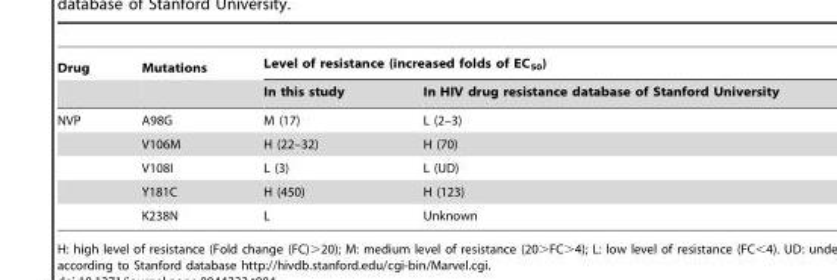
<table><thead><tr><td rowspan="2">Drug</td><td rowspan="2">Mutations</td><td colspan="2">Level of resistance (increased folds of EC<sub>50</sub>)</td></tr><tr><td>In this study</td><td>In HIV drug resistance database of Stanford University</td></tr></thead><tbody><tr><td rowspan="5">NVP</td><td>A98G</td><td>M (17)</td><td>L (2–3)</td></tr><tr><td>V106M</td><td>H (22–32)</td><td>H (70)</td></tr><tr><td>V108I</td><td>L (3)</td><td>L (UD)</td></tr><tr><td>Y181C</td><td>H (450)</td><td>H (123)</td></tr><tr><td>K238N</td><td>L</td><td>Unknown</td></tr></tbody></table>